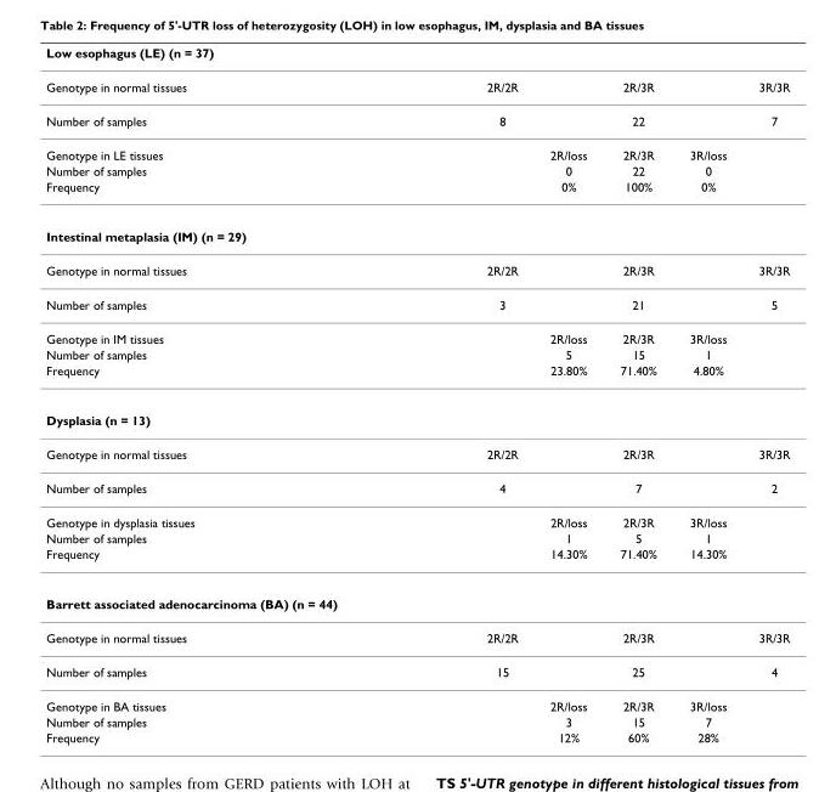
<table><thead><tr><td>Low esophagus (LE) (n = 37)</td><td></td><td></td><td></td><td></td><td></td></tr></thead><tbody><tr><td>Genotype in normal tissues</td><td>2R/2R</td><td colspan="3">2R/3R</td><td>3R/3R</td></tr><tr><td>Number of samples</td><td>8</td><td colspan="3">22</td><td>7</td></tr><tr><td>Genotype in LE tissues</td><td></td><td>2R/loss</td><td>2R/3R</td><td>3R/loss</td><td></td></tr><tr><td>Number of samples</td><td></td><td>0</td><td>22</td><td>0</td><td></td></tr><tr><td>Frequency</td><td></td><td>0%</td><td>100%</td><td>0%</td><td></td></tr><tr><td colspan="6">Intestinal metaplasia (IM) (n = 29)</td></tr><tr><td>Genotype in normal tissues</td><td>2R/2R</td><td colspan="3">2R/3R</td><td>3R/3R</td></tr><tr><td>Number of samples</td><td>3</td><td colspan="3">21</td><td>5</td></tr><tr><td>Genotype in IM tissues</td><td></td><td>2R/loss</td><td>2R/3R</td><td>3R/loss</td><td></td></tr><tr><td>Number of samples</td><td></td><td>5</td><td>15</td><td>1</td><td></td></tr><tr><td>Frequency</td><td></td><td>23.80%</td><td>71.40%</td><td>4.80%</td><td></td></tr><tr><td colspan="6">Dysplasia (n = 13)</td></tr><tr><td>Genotype in normal tissues</td><td>2R/2R</td><td colspan="3">2R/3R</td><td>3R/3R</td></tr><tr><td>Number of samples</td><td>4</td><td colspan="3">7</td><td>2</td></tr><tr><td>Genotype in dysplasia tissues</td><td></td><td>2R/loss</td><td>2R/3R</td><td>3R/loss</td><td></td></tr><tr><td>Number of samples</td><td></td><td>1</td><td>5</td><td>1</td><td></td></tr><tr><td>Frequency</td><td></td><td>14.30%</td><td>71.40%</td><td>14.30%</td><td></td></tr><tr><td colspan="6">Barrett associated adenocarcinoma (BA) (n = 44)</td></tr><tr><td>Genotype in normal tissues</td><td>2R/2R</td><td colspan="3">2R/3R</td><td>3R/3R</td></tr><tr><td>Number of samples</td><td>15</td><td colspan="3">25</td><td>4</td></tr><tr><td>Genotype in BA tissues</td><td></td><td>2R/loss</td><td>2R/3R</td><td>3R/loss</td><td></td></tr><tr><td>Number of samples</td><td></td><td>3</td><td>15</td><td>7</td><td></td></tr><tr><td>Frequency</td><td></td><td>12%</td><td>60%</td><td>28%</td><td></td></tr></tbody></table>